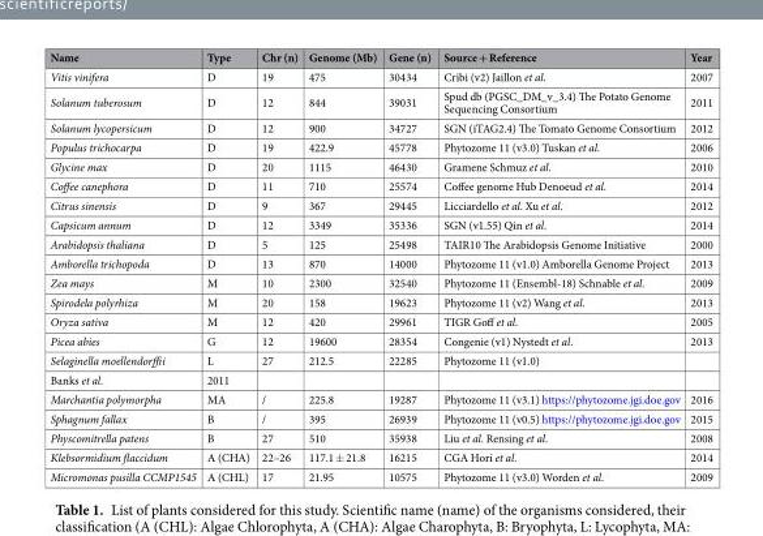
<table><thead><tr><td>Name</td><td>Type</td><td>Chr (n)</td><td>Genome (Mb)</td><td>Gene (n)</td><td>Source + Reference</td><td>Year</td></tr></thead><tbody><tr><td>Vitis vinifera</td><td>D</td><td>19</td><td>475</td><td>30434</td><td>Cribi (v2) Jaillon et al.</td><td>2007</td></tr><tr><td>Solanum tuberosum</td><td>D</td><td>12</td><td>844</td><td>39031</td><td>Spud db (PGSC_DM_v_3.4) The Potato Genome Sequencing Consortium</td><td>2011</td></tr><tr><td>Solanum lycopersicum</td><td>D</td><td>12</td><td>900</td><td>34727</td><td>SGN (iTAG2.4) The Tomato Genome Consortium</td><td>2012</td></tr><tr><td>Populus trichocarpa</td><td>D</td><td>19</td><td>422.9</td><td>45778</td><td>Phytozome 11 (v3.0) Tuskan et al.</td><td>2006</td></tr><tr><td>Glycine max</td><td>D</td><td>20</td><td>1115</td><td>46430</td><td>Gramene Schmuz et al.</td><td>2010</td></tr><tr><td>Coffee canephora</td><td>D</td><td>11</td><td>710</td><td>25574</td><td>Coffee genome Hub Denoeud et al.</td><td>2014</td></tr><tr><td>Citrus sinensis</td><td>D</td><td>9</td><td>367</td><td>29445</td><td>Licciardello et al. Xu et al.</td><td>2012</td></tr><tr><td>Capsicum annum</td><td>D</td><td>12</td><td>3349</td><td>35336</td><td>SGN (v1.55) Qin et al.</td><td>2014</td></tr><tr><td>Arabidopsis thaliana</td><td>D</td><td>5</td><td>125</td><td>25498</td><td>TAIR10 The Arabidopsis Genome Initiative</td><td>2000</td></tr><tr><td>Amborella trichopoda</td><td>D</td><td>13</td><td>870</td><td>14000</td><td>Phytozome 11 (v1.0) Amborella Genome Project</td><td>2013</td></tr><tr><td>Zea mays</td><td>M</td><td>10</td><td>2300</td><td>32540</td><td>Phytozome 11 (Ensembl-18) Schnable et al.</td><td>2009</td></tr><tr><td>Spirodela polyrhiza</td><td>M</td><td>20</td><td>158</td><td>19623</td><td>Phytozome 11 (v2) Wang et al.</td><td>2013</td></tr><tr><td>Oryza sativa</td><td>M</td><td>12</td><td>420</td><td>29961</td><td>TIGR Goff et al.</td><td>2005</td></tr><tr><td>Picea abies</td><td>G</td><td>12</td><td>19600</td><td>28354</td><td>Congenie (v1) Nystedt et al.</td><td>2013</td></tr><tr><td>Selaginella moellendorffii</td><td>L</td><td>27</td><td>212.5</td><td>22285</td><td>Phytozome 11 (v1.0)</td><td></td></tr><tr><td>Banks et al.</td><td>2011</td><td></td><td></td><td></td><td></td><td></td></tr><tr><td>Marchantia polymorpha</td><td>MA</td><td>/</td><td>225.8</td><td>19287</td><td>Phytozome 11 (v3.1) https://phytozome.jgi.doe.gov</td><td>2016</td></tr><tr><td>Sphagnum fallax</td><td>B</td><td>/</td><td>395</td><td>26939</td><td>Phytozome 11 (v0.5) https://phytozome.jgi.doe.gov</td><td>2015</td></tr><tr><td>Physcomitrella patens</td><td>B</td><td>27</td><td>510</td><td>35938</td><td>Liu et al. Rensing et al.</td><td>2008</td></tr><tr><td>Klebsormidium flaccidum</td><td>A (CHA)</td><td>22–26</td><td>117.1 ± 21.8</td><td>16215</td><td>CGA Hori et al.</td><td>2014</td></tr><tr><td>Micromonas pusilla CCMP1545</td><td>A (CHL)</td><td>17</td><td>21.95</td><td>10575</td><td>Phytozome 11 (v3.0) Worden et al.</td><td>2009</td></tr></tbody></table>